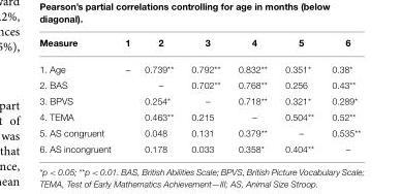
<table><thead><tr><td>Measure</td><td>1</td><td>2</td><td>3</td><td>4</td><td>5</td><td>6</td></tr></thead><tbody><tr><td>1. Age</td><td>–</td><td>0.739**</td><td>0.792**</td><td>0.832**</td><td>0.351*</td><td>0.38*</td></tr><tr><td>2. BAS</td><td></td><td>–</td><td>0.702**</td><td>0.768**</td><td>0.256</td><td>0.43**</td></tr><tr><td>3. BPVS</td><td></td><td>0.254*</td><td>–</td><td>0.718**</td><td>0.321*</td><td>0.289*</td></tr><tr><td>4. TEMA</td><td></td><td>0.463**</td><td>0.215</td><td>–</td><td>0.504**</td><td>0.52**</td></tr><tr><td>5. AS congruent</td><td></td><td>0.048</td><td>0.131</td><td>0.379**</td><td>–</td><td>0.535**</td></tr><tr><td>6. AS incongruent</td><td></td><td>0.178</td><td>0.033</td><td>0.358*</td><td>0.404**</td><td>–</td></tr></tbody></table>